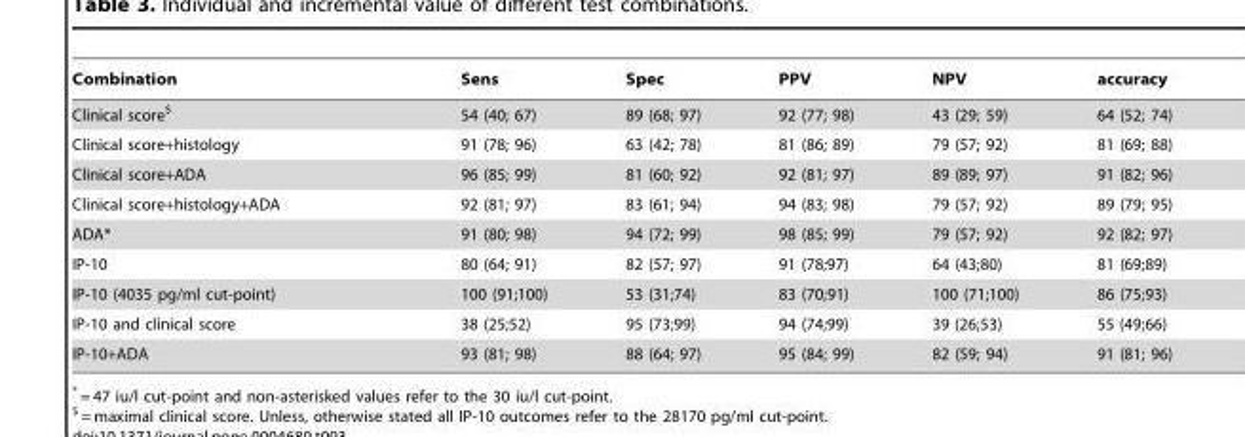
<table><thead><tr><td>Combination</td><td>Sens</td><td>Spec</td><td>PPV</td><td>NPV</td><td>accuracy</td></tr></thead><tbody><tr><td>Clinical score$</td><td>54 (40; 67)</td><td>89 (68; 97)</td><td>92 (77; 98)</td><td>43 (29; 59)</td><td>64 (52; 74)</td></tr><tr><td>Clinical score+histology</td><td>91 (78; 96)</td><td>63 (42; 78)</td><td>81 (86; 89)</td><td>79 (57; 92)</td><td>81 (69; 88)</td></tr><tr><td>Clinical score+ADA</td><td>96 (85; 99)</td><td>81 (60; 92)</td><td>92 (81; 97)</td><td>89 (89; 97)</td><td>91 (82; 96)</td></tr><tr><td>Clinical score+histology+ADA</td><td>92 (81; 97)</td><td>83 (61; 94)</td><td>94 (83; 98)</td><td>79 (57; 92)</td><td>89 (79; 95)</td></tr><tr><td>ADA*</td><td>91 (80; 98)</td><td>94 (72; 99)</td><td>98 (85; 99)</td><td>79 (57; 92)</td><td>92 (82; 97)</td></tr><tr><td>IP-10</td><td>80 (64; 91)</td><td>82 (57; 97)</td><td>91 (78;97)</td><td>64 (43;80)</td><td>81 (69;89)</td></tr><tr><td>IP-10 (4035 pg/ml cut-point)</td><td>100 (91;100)</td><td>53 (31;74)</td><td>83 (70;91)</td><td>100 (71;100)</td><td>86 (75;93)</td></tr><tr><td>IP-10 and clinical score</td><td>38 (25;52)</td><td>95 (73;99)</td><td>94 (74;99)</td><td>39 (26;53)</td><td>55 (49;66)</td></tr><tr><td>IP-10+ADA</td><td>93 (81; 98)</td><td>88 (64; 97)</td><td>95 (84; 99)</td><td>82 (59; 94)</td><td>91 (81; 96)</td></tr></tbody></table>